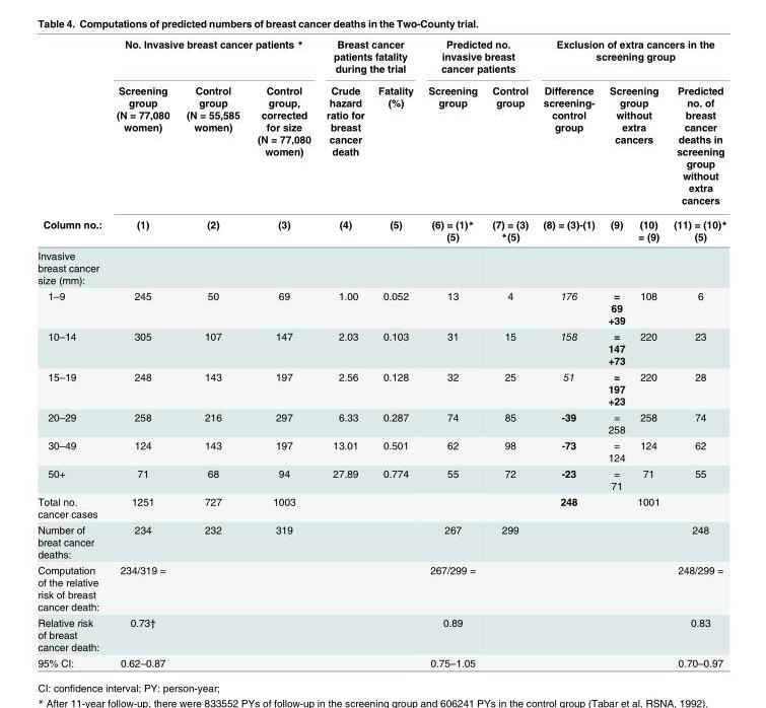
<table><thead><tr><td rowspan="3">Column no.:</td><td colspan="3">No. Invasive breast cancer patients *</td><td colspan="2">Breast cancer patients fatality during the trial</td><td colspan="2">Predicted no. invasive breast cancer patients</td><td colspan="4">Exclusion of extra cancers in the screening group</td></tr><tr><td rowspan="2">Screening group (N = 77,080 women) (1)</td><td rowspan="2">Control group (N = 55,585 women) (2)</td><td rowspan="2">Control group, corrected for size (N = 77,080 women) (3)</td><td rowspan="2">Crude hazard ratio for breast cancer death (4)</td><td rowspan="2">Fatality (%) (5)</td><td rowspan="2">Screening group (6) = (1)* (5)</td><td rowspan="2">Control group (7) = (3) *(5)</td><td rowspan="2">Difference screening- control group (8) = (3)-(1)</td><td colspan="2">Screening group without extra cancers</td><td rowspan="2">Predicted no. of breast cancer deaths in screening group without extra cancers (11) = (10)* (5)</td></tr><tr><td>(9)</td><td>(10) = (9)</td></tr></thead><tbody><tr><td colspan="12">Invasive breast cancer size (mm):</td></tr><tr><td>1–9</td><td>245</td><td>50</td><td>69</td><td>1.00</td><td>0.052</td><td>13</td><td>4</td><td>176</td><td>= 69 +39</td><td>108</td><td>6</td></tr><tr><td>10–14</td><td>305</td><td>107</td><td>147</td><td>2.03</td><td>0.103</td><td>31</td><td>15</td><td>158</td><td>= 147 +73</td><td>220</td><td>23</td></tr><tr><td>15–19</td><td>248</td><td>143</td><td>197</td><td>2.56</td><td>0.128</td><td>32</td><td>25</td><td>51</td><td>= 197 +23</td><td>220</td><td>28</td></tr><tr><td>20–29</td><td>258</td><td>216</td><td>297</td><td>6.33</td><td>0.287</td><td>74</td><td>85</td><td>-39</td><td>= 258</td><td>258</td><td>74</td></tr><tr><td>30–49</td><td>124</td><td>143</td><td>197</td><td>13.01</td><td>0.501</td><td>62</td><td>98</td><td>-73</td><td>= 124</td><td>124</td><td>62</td></tr><tr><td>50+</td><td>71</td><td>68</td><td>94</td><td>27.89</td><td>0.774</td><td>55</td><td>72</td><td>-23</td><td>= 71</td><td>71</td><td>55</td></tr><tr><td>Total no. cancer cases</td><td>1251</td><td>727</td><td>1003</td><td></td><td></td><td></td><td></td><td>248</td><td></td><td>1001</td><td></td></tr><tr><td>Number of breat cancer deaths:</td><td>234</td><td>232</td><td>319</td><td></td><td></td><td>267</td><td>299</td><td></td><td></td><td></td><td>248</td></tr><tr><td>Computation of the relative risk of breast cancer death:</td><td>234/319 =</td><td></td><td></td><td></td><td></td><td>267/299 =</td><td></td><td></td><td></td><td></td><td>248/299 =</td></tr><tr><td>Relative risk of breast cancer death:</td><td>0.73†</td><td></td><td></td><td></td><td></td><td>0.89</td><td></td><td></td><td></td><td></td><td>0.83</td></tr><tr><td>95% CI:</td><td>0.62–0.87</td><td></td><td></td><td></td><td></td><td>0.75–1.05</td><td></td><td></td><td></td><td></td><td>0.70–0.97</td></tr></tbody></table>